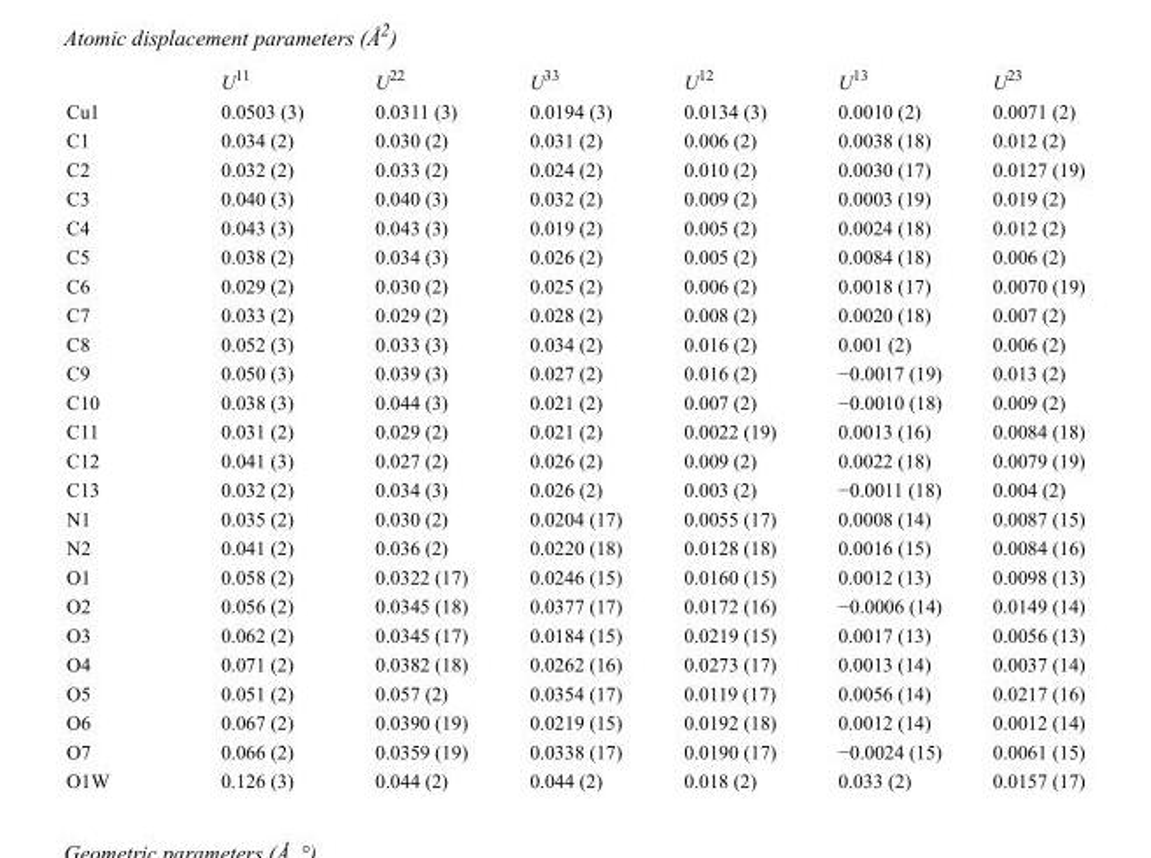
<table><thead><tr><td></td><td>U<sup>11</sup></td><td>U<sup>22</sup></td><td>U<sup>33</sup></td><td>U<sup>12</sup></td><td>U<sup>13</sup></td><td>U<sup>23</sup></td></tr></thead><tbody><tr><td>Cu1</td><td>0.0503 (3)</td><td>0.0311 (3)</td><td>0.0194 (3)</td><td>0.0134 (3)</td><td>0.0010 (2)</td><td>0.0071 (2)</td></tr><tr><td>C1</td><td>0.034 (2)</td><td>0.030 (2)</td><td>0.031 (2)</td><td>0.006 (2)</td><td>0.0038 (18)</td><td>0.012 (2)</td></tr><tr><td>C2</td><td>0.032 (2)</td><td>0.033 (2)</td><td>0.024 (2)</td><td>0.010 (2)</td><td>0.0030 (17)</td><td>0.0127 (19)</td></tr><tr><td>C3</td><td>0.040 (3)</td><td>0.040 (3)</td><td>0.032 (2)</td><td>0.009 (2)</td><td>0.0003 (19)</td><td>0.019 (2)</td></tr><tr><td>C4</td><td>0.043 (3)</td><td>0.043 (3)</td><td>0.019 (2)</td><td>0.005 (2)</td><td>0.0024 (18)</td><td>0.012 (2)</td></tr><tr><td>C5</td><td>0.038 (2)</td><td>0.034 (3)</td><td>0.026 (2)</td><td>0.005 (2)</td><td>0.0084 (18)</td><td>0.006 (2)</td></tr><tr><td>C6</td><td>0.029 (2)</td><td>0.030 (2)</td><td>0.025 (2)</td><td>0.006 (2)</td><td>0.0018 (17)</td><td>0.0070 (19)</td></tr><tr><td>C7</td><td>0.033 (2)</td><td>0.029 (2)</td><td>0.028 (2)</td><td>0.008 (2)</td><td>0.0020 (18)</td><td>0.007 (2)</td></tr><tr><td>C8</td><td>0.052 (3)</td><td>0.033 (3)</td><td>0.034 (2)</td><td>0.016 (2)</td><td>0.001 (2)</td><td>0.006 (2)</td></tr><tr><td>C9</td><td>0.050 (3)</td><td>0.039 (3)</td><td>0.027 (2)</td><td>0.016 (2)</td><td>−0.0017 (19)</td><td>0.013 (2)</td></tr><tr><td>C10</td><td>0.038 (3)</td><td>0.044 (3)</td><td>0.021 (2)</td><td>0.007 (2)</td><td>−0.0010 (18)</td><td>0.009 (2)</td></tr><tr><td>C11</td><td>0.031 (2)</td><td>0.029 (2)</td><td>0.021 (2)</td><td>0.0022 (19)</td><td>0.0013 (16)</td><td>0.0084 (18)</td></tr><tr><td>C12</td><td>0.041 (3)</td><td>0.027 (2)</td><td>0.026 (2)</td><td>0.009 (2)</td><td>0.0022 (18)</td><td>0.0079 (19)</td></tr><tr><td>C13</td><td>0.032 (2)</td><td>0.034 (3)</td><td>0.026 (2)</td><td>0.003 (2)</td><td>−0.0011 (18)</td><td>0.004 (2)</td></tr><tr><td>N1</td><td>0.035 (2)</td><td>0.030 (2)</td><td>0.0204 (17)</td><td>0.0055 (17)</td><td>0.0008 (14)</td><td>0.0087 (15)</td></tr><tr><td>N2</td><td>0.041 (2)</td><td>0.036 (2)</td><td>0.0220 (18)</td><td>0.0128 (18)</td><td>0.0016 (15)</td><td>0.0084 (16)</td></tr><tr><td>O1</td><td>0.058 (2)</td><td>0.0322 (17)</td><td>0.0246 (15)</td><td>0.0160 (15)</td><td>0.0012 (13)</td><td>0.0098 (13)</td></tr><tr><td>O2</td><td>0.056 (2)</td><td>0.0345 (18)</td><td>0.0377 (17)</td><td>0.0172 (16)</td><td>−0.0006 (14)</td><td>0.0149 (14)</td></tr><tr><td>O3</td><td>0.062 (2)</td><td>0.0345 (17)</td><td>0.0184 (15)</td><td>0.0219 (15)</td><td>0.0017 (13)</td><td>0.0056 (13)</td></tr><tr><td>O4</td><td>0.071 (2)</td><td>0.0382 (18)</td><td>0.0262 (16)</td><td>0.0273 (17)</td><td>0.0013 (14)</td><td>0.0037 (14)</td></tr><tr><td>O5</td><td>0.051 (2)</td><td>0.057 (2)</td><td>0.0354 (17)</td><td>0.0119 (17)</td><td>0.0056 (14)</td><td>0.0217 (16)</td></tr><tr><td>O6</td><td>0.067 (2)</td><td>0.0390 (19)</td><td>0.0219 (15)</td><td>0.0192 (18)</td><td>0.0012 (14)</td><td>0.0012 (14)</td></tr><tr><td>O7</td><td>0.066 (2)</td><td>0.0359 (19)</td><td>0.0338 (17)</td><td>0.0190 (17)</td><td>−0.0024 (15)</td><td>0.0061 (15)</td></tr><tr><td>O1W</td><td>0.126 (3)</td><td>0.044 (2)</td><td>0.044 (2)</td><td>0.018 (2)</td><td>0.033 (2)</td><td>0.0157 (17)</td></tr></tbody></table>